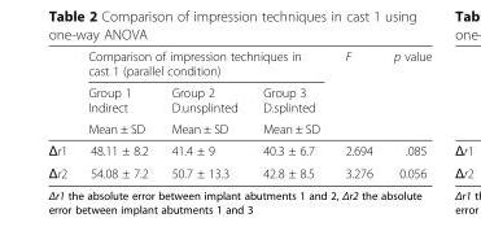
<table><thead><tr><td rowspan="3"></td><td colspan="3">Comparison of impression techniques in cast 1 (parallel condition)</td><td rowspan="3">F</td><td rowspan="3">p value</td></tr><tr><td rowspan="2">Group 1 Indirect Mean ± SD</td><td rowspan="2">Group 2 D.unsplinted Mean ± SD</td><td rowspan="2">Group 3 D.splinted Mean ± SD</td></tr><tr></tr></thead><tbody><tr><td>Δr1</td><td>48.11 ± 8.2</td><td>41.4 ± 9</td><td>40.3 ± 6.7</td><td>2.694</td><td>.085</td></tr><tr><td>Δr2</td><td>54.08 ± 7.2</td><td>50.7 ± 13.3</td><td>42.8 ± 8.5</td><td>3.276</td><td>0.056</td></tr></tbody></table>